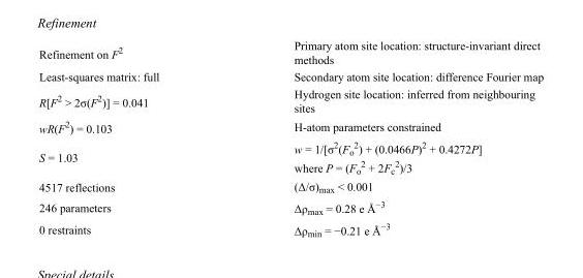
<table><tbody><tr><td>Refinement on F<sup>2</sup></td><td>Primary atom site location: structure-invariant direct methods</td></tr><tr><td>Least-squares matrix: full</td><td>Secondary atom site location: difference Fourier map</td></tr><tr><td>R[F<sup>2</sup> &gt; 2σ(F<sup>2</sup>)] = 0.041</td><td>Hydrogen site location: inferred from neighbouring sites</td></tr><tr><td>wR(F<sup>2</sup>) = 0.103</td><td>H-atom parameters constrained</td></tr><tr><td>S = 1.03</td><td>w = 1/[σ<sup>2</sup>(F<sub>o</sub> <sup>2</sup>) + (0.0466P)<sup>2</sup> + 0.4272P] where P = (F<sub>o</sub> <sup>2</sup> + 2F<sub>c</sub> <sup>2</sup>)/3</td></tr><tr><td>4517 reflections</td><td>(Δ/σ)<sub>max</sub> &lt; 0.001</td></tr><tr><td>246 parameters</td><td>Δρ<sub>max</sub> = 0.28 e Å<sup>−3</sup></td></tr><tr><td>0 restraints</td><td>Δρ<sub>min</sub> = −0.21 e Å<sup>−3</sup></td></tr></tbody></table>